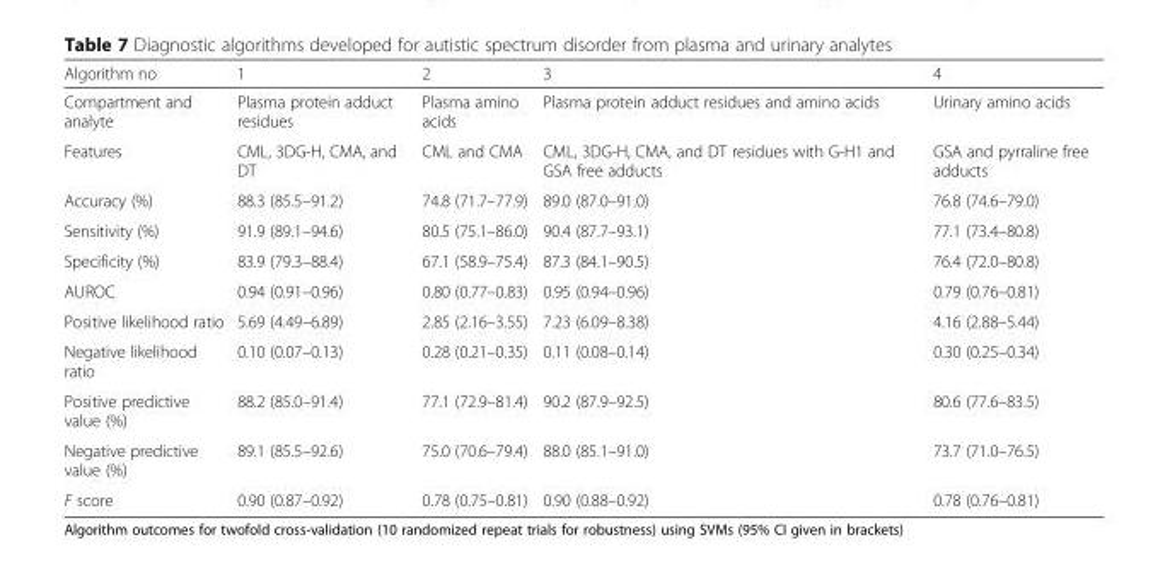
<table><thead><tr><td>Algorithm no</td><td>1</td><td>2</td><td>3</td><td>4</td></tr></thead><tbody><tr><td>Compartment and analyte</td><td>Plasma protein adduct residues</td><td>Plasma amino acids</td><td>Plasma protein adduct residues and amino acids</td><td>Urinary amino acids</td></tr><tr><td>Features</td><td>CML, 3DG-H, CMA, and DT</td><td>CML and CMA</td><td>CML, 3DG-H, CMA, and DT residues with G-H1 and GSA free adducts</td><td>GSA and pyrraline free adducts</td></tr><tr><td>Accuracy (%)</td><td>88.3 (85.5–91.2)</td><td>74.8 (71.7–77.9)</td><td>89.0 (87.0–91.0)</td><td>76.8 (74.6–79.0)</td></tr><tr><td>Sensitivity (%)</td><td>91.9 (89.1–94.6)</td><td>80.5 (75.1–86.0)</td><td>90.4 (87.7–93.1)</td><td>77.1 (73.4–80.8)</td></tr><tr><td>Specificity (%)</td><td>83.9 (79.3–88.4)</td><td>67.1 (58.9–75.4)</td><td>87.3 (84.1–90.5)</td><td>76.4 (72.0–80.8)</td></tr><tr><td>AUROC</td><td>0.94 (0.91–0.96)</td><td>0.80 (0.77–0.83)</td><td>0.95 (0.94–0.96)</td><td>0.79 (0.76–0.81)</td></tr><tr><td>Positive likelihood ratio</td><td>5.69 (4.49–6.89)</td><td>2.85 (2.16–3.55)</td><td>7.23 (6.09–8.38)</td><td>4.16 (2.88–5.44)</td></tr><tr><td>Negative likelihood ratio</td><td>0.10 (0.07–0.13)</td><td>0.28 (0.21–0.35)</td><td>0.11 (0.08–0.14)</td><td>0.30 (0.25–0.34)</td></tr><tr><td>Positive predictive value (%)</td><td>88.2 (85.0–91.4)</td><td>77.1 (72.9–81.4)</td><td>90.2 (87.9–92.5)</td><td>80.6 (77.6–83.5)</td></tr><tr><td>Negative predictive value (%)</td><td>89.1 (85.5–92.6)</td><td>75.0 (70.6–79.4)</td><td>88.0 (85.1–91.0)</td><td>73.7 (71.0–76.5)</td></tr><tr><td>F score</td><td>0.90 (0.87–0.92)</td><td>0.78 (0.75–0.81)</td><td>0.90 (0.88–0.92)</td><td>0.78 (0.76–0.81)</td></tr></tbody></table>